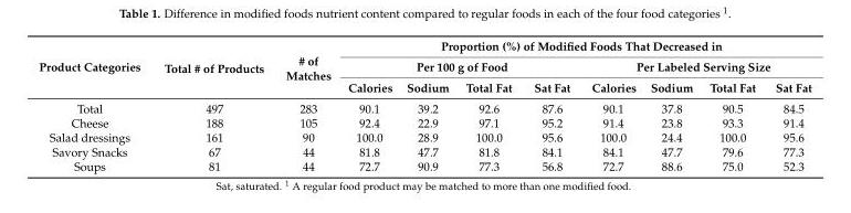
<table><thead><tr><td rowspan="3">Product Categories</td><td rowspan="3">Total # of Products</td><td rowspan="3"># of Matches</td><td colspan="8">Proportion (%) of Modified Foods That Decreased in</td></tr><tr><td colspan="4">Per 100 g of Food</td><td colspan="4">Per Labeled Serving Size</td></tr><tr><td>Calories</td><td>Sodium</td><td>Total Fat</td><td>Sat Fat</td><td>Calories</td><td>Sodium</td><td>Total Fat</td><td>Sat Fat</td></tr></thead><tbody><tr><td>Total</td><td>497</td><td>283</td><td>90.1</td><td>39.2</td><td>92.6</td><td>87.6</td><td>90.1</td><td>37.8</td><td>90.5</td><td>84.5</td></tr><tr><td>Cheese</td><td>188</td><td>105</td><td>92.4</td><td>22.9</td><td>97.1</td><td>95.2</td><td>91.4</td><td>23.8</td><td>93.3</td><td>91.4</td></tr><tr><td>Salad dressings</td><td>161</td><td>90</td><td>100.0</td><td>28.9</td><td>100.0</td><td>95.6</td><td>100.0</td><td>24.4</td><td>100.0</td><td>95.6</td></tr><tr><td>Savory Snacks</td><td>67</td><td>44</td><td>81.8</td><td>47.7</td><td>81.8</td><td>84.1</td><td>84.1</td><td>47.7</td><td>79.6</td><td>77.3</td></tr><tr><td>Soups</td><td>81</td><td>44</td><td>72.7</td><td>90.9</td><td>77.3</td><td>56.8</td><td>72.7</td><td>88.6</td><td>75.0</td><td>52.3</td></tr></tbody></table>